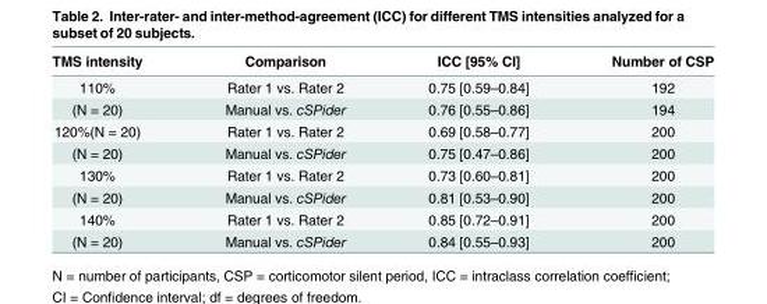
<table><thead><tr><td>TMS intensity</td><td>Comparison</td><td>ICC [95% CI]</td><td>Number of CSP</td></tr></thead><tbody><tr><td>110%</td><td>Rater 1 vs. Rater 2</td><td>0.75 [0.59–0.84]</td><td>192</td></tr><tr><td>(N = 20)</td><td>Manual vs. cSPider</td><td>0.76 [0.55–0.86]</td><td>194</td></tr><tr><td>120%(N = 20)</td><td>Rater 1 vs. Rater 2</td><td>0.69 [0.58–0.77]</td><td>200</td></tr><tr><td>(N = 20)</td><td>Manual vs. cSPider</td><td>0.75 [0.47–0.86]</td><td>200</td></tr><tr><td>130%</td><td>Rater 1 vs. Rater 2</td><td>0.73 [0.60–0.81]</td><td>200</td></tr><tr><td>(N = 20)</td><td>Manual vs. cSPider</td><td>0.81 [0.53–0.90]</td><td>200</td></tr><tr><td>140%</td><td>Rater 1 vs. Rater 2</td><td>0.85 [0.72–0.91]</td><td>200</td></tr><tr><td>(N = 20)</td><td>Manual vs. cSPider</td><td>0.84 [0.55–0.93]</td><td>200</td></tr></tbody></table>